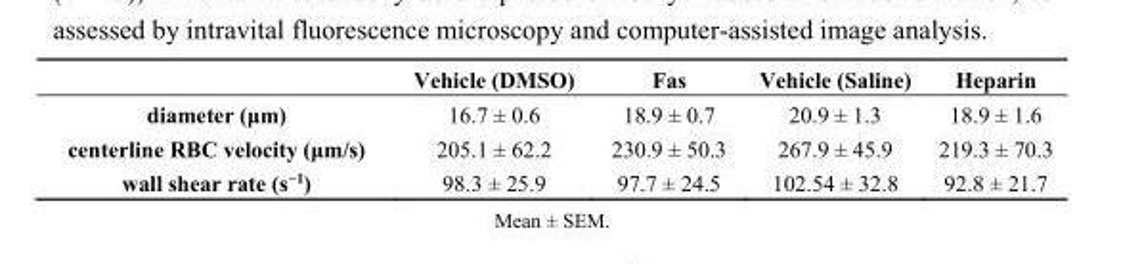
<table><thead><tr><td></td><td>Vehicle (DMSO)</td><td>Fas</td><td>Vehicle (Saline)</td><td>Heparin</td></tr></thead><tbody><tr><td>diameter (μm)</td><td>16.7 ± 0.6</td><td>18.9 ± 0.7</td><td>20.9 ± 1.3</td><td>18.9 ± 1.6</td></tr><tr><td>centerline RBC velocity (μm/s)</td><td>205.1 ± 62.2</td><td>230.9 ± 50.3</td><td>267.9 ± 45.9</td><td>219.3 ± 70.3</td></tr><tr><td>wall shear rate (s<sup>−1</sup>)</td><td>98.3 ± 25.9</td><td>97.7 ± 24.5</td><td>102.54 ± 32.8</td><td>92.8 ± 21.7</td></tr></tbody></table>